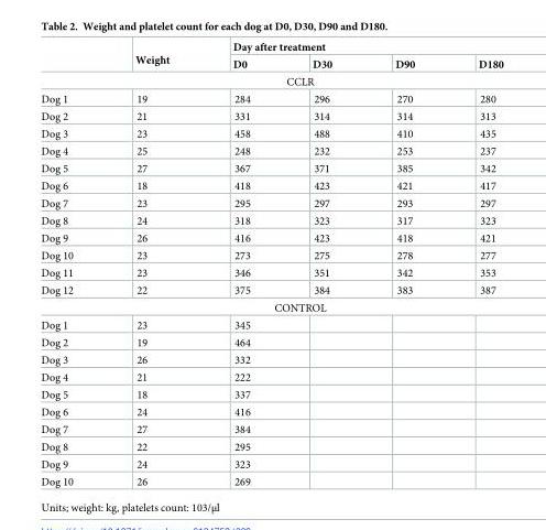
<table><thead><tr><td rowspan="2"></td><td rowspan="2">Weight</td><td colspan="4">Day after treatment</td></tr><tr><td>D0</td><td>D30</td><td>D90</td><td>D180</td></tr></thead><tbody><tr><td colspan="6">CCLR</td></tr><tr><td>Dog 1</td><td>19</td><td>284</td><td>296</td><td>270</td><td>280</td></tr><tr><td>Dog 2</td><td>21</td><td>331</td><td>314</td><td>314</td><td>313</td></tr><tr><td>Dog 3</td><td>23</td><td>458</td><td>488</td><td>410</td><td>435</td></tr><tr><td>Dog 4</td><td>25</td><td>248</td><td>232</td><td>253</td><td>237</td></tr><tr><td>Dog 5</td><td>27</td><td>367</td><td>371</td><td>385</td><td>342</td></tr><tr><td>Dog 6</td><td>18</td><td>418</td><td>423</td><td>421</td><td>417</td></tr><tr><td>Dog 7</td><td>23</td><td>295</td><td>297</td><td>293</td><td>297</td></tr><tr><td>Dog 8</td><td>24</td><td>318</td><td>323</td><td>317</td><td>323</td></tr><tr><td>Dog 9</td><td>26</td><td>416</td><td>423</td><td>418</td><td>421</td></tr><tr><td>Dog 10</td><td>23</td><td>273</td><td>275</td><td>278</td><td>277</td></tr><tr><td>Dog 11</td><td>23</td><td>346</td><td>351</td><td>342</td><td>353</td></tr><tr><td>Dog 12</td><td>22</td><td>375</td><td>384</td><td>383</td><td>387</td></tr><tr><td colspan="6">CONTROL</td></tr><tr><td>Dog 1</td><td>23</td><td>345</td><td></td><td></td><td></td></tr><tr><td>Dog 2</td><td>19</td><td>464</td><td></td><td></td><td></td></tr><tr><td>Dog 3</td><td>26</td><td>332</td><td></td><td></td><td></td></tr><tr><td>Dog 4</td><td>21</td><td>222</td><td></td><td></td><td></td></tr><tr><td>Dog 5</td><td>18</td><td>337</td><td></td><td></td><td></td></tr><tr><td>Dog 6</td><td>24</td><td>416</td><td></td><td></td><td></td></tr><tr><td>Dog 7</td><td>27</td><td>384</td><td></td><td></td><td></td></tr><tr><td>Dog 8</td><td>22</td><td>295</td><td></td><td></td><td></td></tr><tr><td>Dog 9</td><td>24</td><td>323</td><td></td><td></td><td></td></tr><tr><td>Dog 10</td><td>26</td><td>269</td><td></td><td></td><td></td></tr></tbody></table>